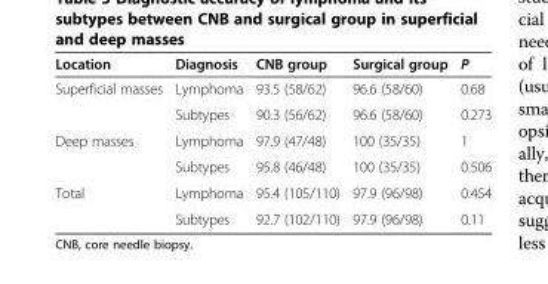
<table><thead><tr><td>Location</td><td>Diagnosis</td><td>CNB group</td><td>Surgical group</td><td>P</td></tr></thead><tbody><tr><td rowspan="2">Superficial masses</td><td>Lymphoma</td><td>93.5 (58/62)</td><td>96.6 (58/60)</td><td>0.68</td></tr><tr><td>Subtypes</td><td>90.3 (56/62)</td><td>96.6 (58/60)</td><td>0.273</td></tr><tr><td rowspan="2">Deep masses</td><td>Lymphoma</td><td>97.9 (47/48)</td><td>100 (35/35)</td><td>1</td></tr><tr><td>Subtypes</td><td>95.8 (46/48)</td><td>100 (35/35)</td><td>0.506</td></tr><tr><td rowspan="2">Total</td><td>Lymphoma</td><td>95.4 (105/110)</td><td>97.9 (96/98)</td><td>0.454</td></tr><tr><td>Subtypes</td><td>92.7 (102/110)</td><td>97.9 (96/98)</td><td>0.11</td></tr></tbody></table>